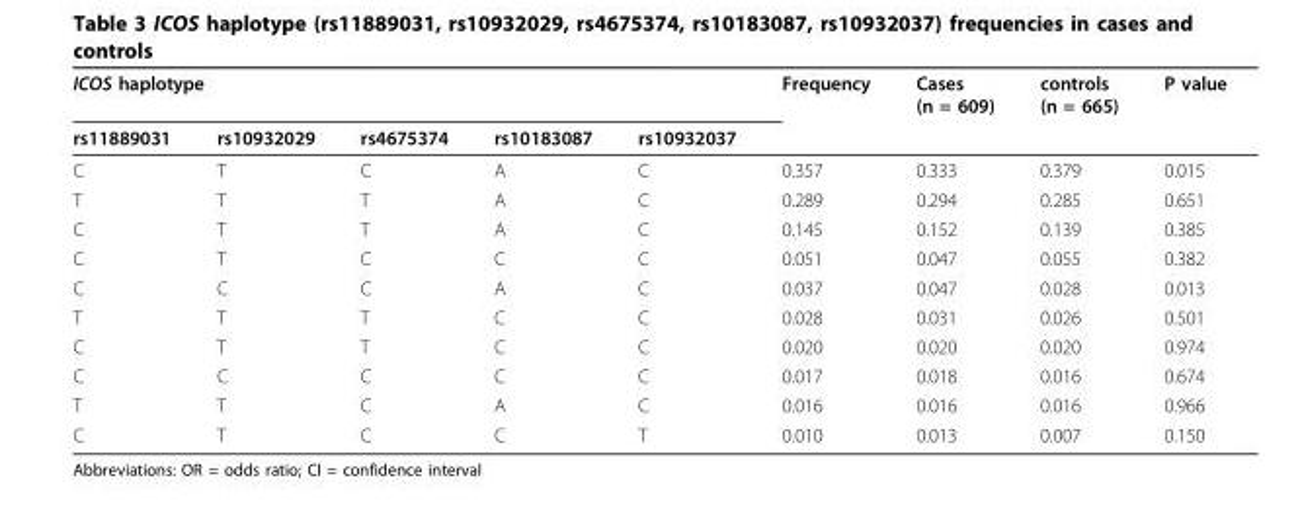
<table><thead><tr><td colspan="5">ICOS haplotype</td><td rowspan="2">Frequency</td><td rowspan="2">Cases (n = 609)</td><td rowspan="2">controls (n = 665)</td><td rowspan="2">P value</td></tr><tr><td>rs11889031</td><td>rs10932029</td><td>rs4675374</td><td>rs10183087</td><td>rs10932037</td></tr></thead><tbody><tr><td>C</td><td>T</td><td>C</td><td>A</td><td>C</td><td>0.357</td><td>0.333</td><td>0.379</td><td>0.015</td></tr><tr><td>T</td><td>T</td><td>T</td><td>A</td><td>C</td><td>0.289</td><td>0.294</td><td>0.285</td><td>0.651</td></tr><tr><td>C</td><td>T</td><td>T</td><td>A</td><td>C</td><td>0.145</td><td>0.152</td><td>0.139</td><td>0.385</td></tr><tr><td>C</td><td>T</td><td>C</td><td>C</td><td>C</td><td>0.051</td><td>0.047</td><td>0.055</td><td>0.382</td></tr><tr><td>C</td><td>C</td><td>C</td><td>A</td><td>C</td><td>0.037</td><td>0.047</td><td>0.028</td><td>0.013</td></tr><tr><td>T</td><td>T</td><td>T</td><td>C</td><td>C</td><td>0.028</td><td>0.031</td><td>0.026</td><td>0.501</td></tr><tr><td>C</td><td>T</td><td>T</td><td>C</td><td>C</td><td>0.020</td><td>0.020</td><td>0.020</td><td>0.974</td></tr><tr><td>C</td><td>C</td><td>C</td><td>C</td><td>C</td><td>0.017</td><td>0.018</td><td>0.016</td><td>0.674</td></tr><tr><td>T</td><td>T</td><td>C</td><td>A</td><td>C</td><td>0.016</td><td>0.016</td><td>0.016</td><td>0.966</td></tr><tr><td>C</td><td>T</td><td>C</td><td>C</td><td>T</td><td>0.010</td><td>0.013</td><td>0.007</td><td>0.150</td></tr></tbody></table>